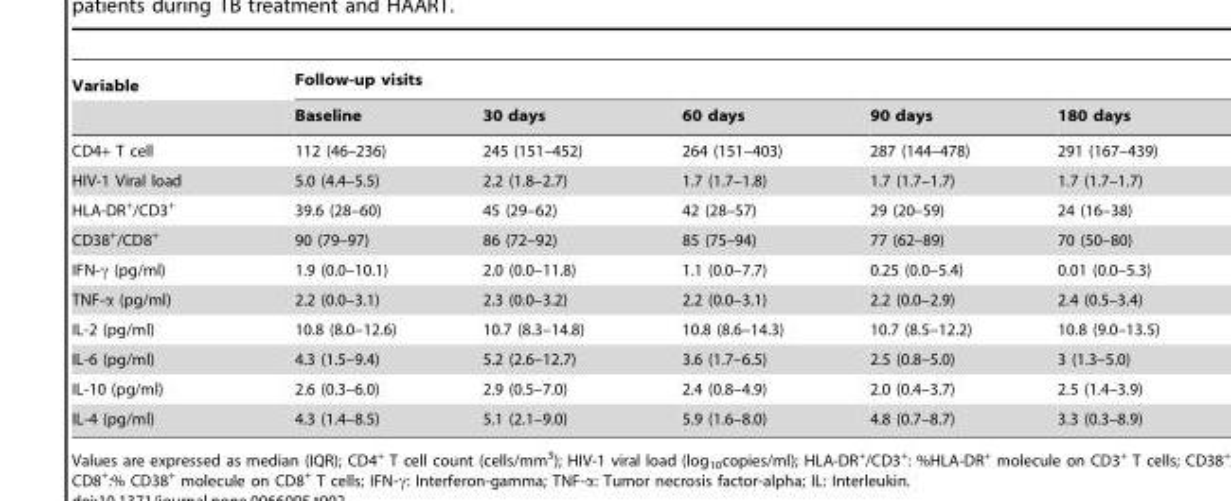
<table><thead><tr><td rowspan="2">Variable</td><td colspan="5">Follow-up visits</td></tr><tr><td>Baseline</td><td>30 days</td><td>60 days</td><td>90 days</td><td>180 days</td></tr></thead><tbody><tr><td>CD4+ T cell</td><td>112 (46–236)</td><td>245 (151–452)</td><td>264 (151–403)</td><td>287 (144–478)</td><td>291 (167–439)</td></tr><tr><td>HIV-1 Viral load</td><td>5.0 (4.4–5.5)</td><td>2.2 (1.8–2.7)</td><td>1.7 (1.7–1.8)</td><td>1.7 (1.7–1.7)</td><td>1.7 (1.7–1.7)</td></tr><tr><td>HLA-DR<sup>+</sup>/CD3<sup>+</sup></td><td>39.6 (28–60)</td><td>45 (29–62)</td><td>42 (28–57)</td><td>29 (20–59)</td><td>24 (16–38)</td></tr><tr><td>CD38<sup>+</sup>/CD8<sup>+</sup></td><td>90 (79–97)</td><td>86 (72–92)</td><td>85 (75–94)</td><td>77 (62–89)</td><td>70 (50–80)</td></tr><tr><td>IFN-γ (pg/ml)</td><td>1.9 (0.0–10.1)</td><td>2.0 (0.0–11.8)</td><td>1.1 (0.0–7.7)</td><td>0.25 (0.0–5.4)</td><td>0.01 (0.0–5.3)</td></tr><tr><td>TNF-α (pg/ml)</td><td>2.2 (0.0–3.1)</td><td>2.3 (0.0–3.2)</td><td>2.2 (0.0–3.1)</td><td>2.2 (0.0–2.9)</td><td>2.4 (0.5–3.4)</td></tr><tr><td>IL-2 (pg/ml)</td><td>10.8 (8.0–12.6)</td><td>10.7 (8.3–14.8)</td><td>10.8 (8.6–14.3)</td><td>10.7 (8.5–12.2)</td><td>10.8 (9.0–13.5)</td></tr><tr><td>IL-6 (pg/ml)</td><td>4.3 (1.5–9.4)</td><td>5.2 (2.6–12.7)</td><td>3.6 (1.7–6.5)</td><td>2.5 (0.8–5.0)</td><td>3 (1.3–5.0)</td></tr><tr><td>IL-10 (pg/ml)</td><td>2.6 (0.3–6.0)</td><td>2.9 (0.5–7.0)</td><td>2.4 (0.8–4.9)</td><td>2.0 (0.4–3.7)</td><td>2.5 (1.4–3.9)</td></tr><tr><td>IL-4 (pg/ml)</td><td>4.3 (1.4–8.5)</td><td>5.1 (2.1–9.0)</td><td>5.9 (1.6–8.0)</td><td>4.8 (0.7–8.7)</td><td>3.3 (0.3–8.9)</td></tr></tbody></table>